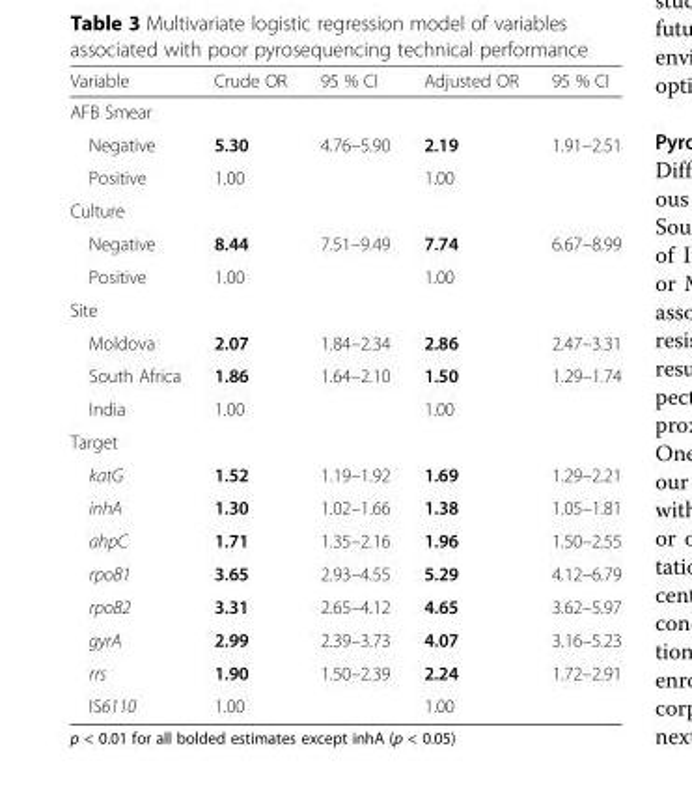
<table><thead><tr><td>Variable</td><td>Crude OR</td><td>95 % CI</td><td>Adjusted OR</td><td>95 % CI</td></tr></thead><tbody><tr><td colspan="5">AFB Smear</td></tr><tr><td>Negative</td><td>5.30</td><td>4.76–5.90</td><td>2.19</td><td>1.91–2.51</td></tr><tr><td>Positive</td><td>1.00</td><td></td><td>1.00</td><td></td></tr><tr><td colspan="5">Culture</td></tr><tr><td>Negative</td><td>8.44</td><td>7.51–9.49</td><td>7.74</td><td>6.67–8.99</td></tr><tr><td>Positive</td><td>1.00</td><td></td><td>1.00</td><td></td></tr><tr><td colspan="5">Site</td></tr><tr><td>Moldova</td><td>2.07</td><td>1.84–2.34</td><td>2.86</td><td>2.47–3.31</td></tr><tr><td>South Africa</td><td>1.86</td><td>1.64–2.10</td><td>1.50</td><td>1.29–1.74</td></tr><tr><td>India</td><td>1.00</td><td></td><td>1.00</td><td></td></tr><tr><td colspan="5">Target</td></tr><tr><td>katG</td><td>1.52</td><td>1.19–1.92</td><td>1.69</td><td>1.29–2.21</td></tr><tr><td>inhA</td><td>1.30</td><td>1.02–1.66</td><td>1.38</td><td>1.05–1.81</td></tr><tr><td>ahpC</td><td>1.71</td><td>1.35–2.16</td><td>1.96</td><td>1.50–2.55</td></tr><tr><td>rpoB1</td><td>3.65</td><td>2.93–4.55</td><td>5.29</td><td>4.12–6.79</td></tr><tr><td>rpoB2</td><td>3.31</td><td>2.65–4.12</td><td>4.65</td><td>3.62–5.97</td></tr><tr><td>gyrA</td><td>2.99</td><td>2.39–3.73</td><td>4.07</td><td>3.16–5.23</td></tr><tr><td>rrs</td><td>1.90</td><td>1.50–2.39</td><td>2.24</td><td>1.72–2.91</td></tr><tr><td>IS6110</td><td>1.00</td><td></td><td>1.00</td><td></td></tr></tbody></table>